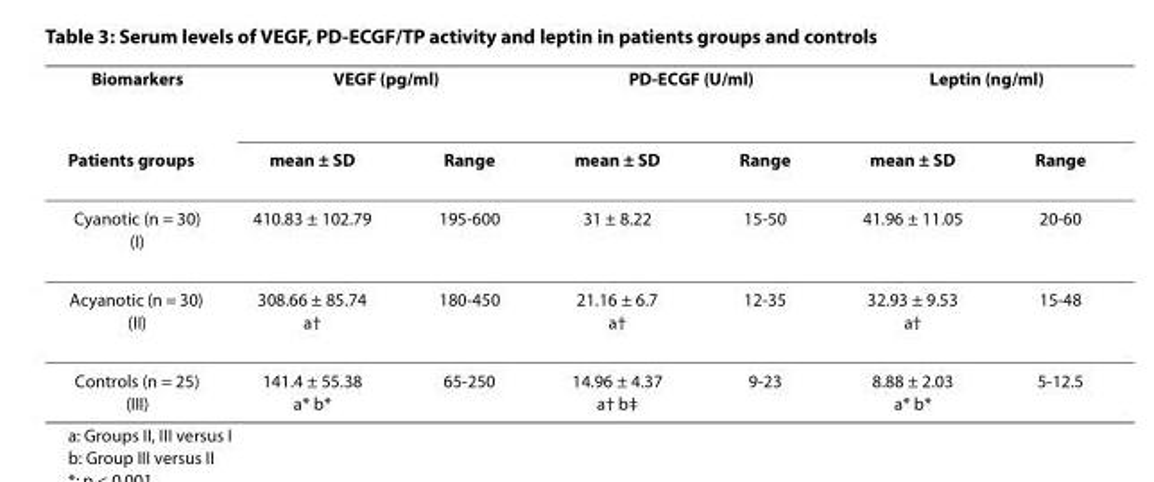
<table><thead><tr><td rowspan="2">Biomarkers Patients groups</td><td colspan="2">VEGF (pg/ml)</td><td colspan="2">PD-ECGF (U/ml)</td><td colspan="2">Leptin (ng/ml)</td></tr><tr><td>mean ± SD</td><td>Range</td><td>mean ± SD</td><td>Range</td><td>mean ± SD</td><td>Range</td></tr></thead><tbody><tr><td>Cyanotic (n = 30) (I)</td><td>410.83 ± 102.79</td><td>195-600</td><td>31 ± 8.22</td><td>15-50</td><td>41.96 ± 11.05</td><td>20-60</td></tr><tr><td>Acyanotic (n = 30) (II)</td><td>308.66 ± 85.74 a†</td><td>180-450</td><td>21.16 ± 6.7 a†</td><td>12-35</td><td>32.93 ± 9.53 a†</td><td>15-48</td></tr><tr><td>Controls (n = 25) (III)</td><td>141.4 ± 55.38 a* b*</td><td>65-250</td><td>14.96 ± 4.37 a† b‡</td><td>9-23</td><td>8.88 ± 2.03 a* b*</td><td>5-12.5</td></tr></tbody></table>